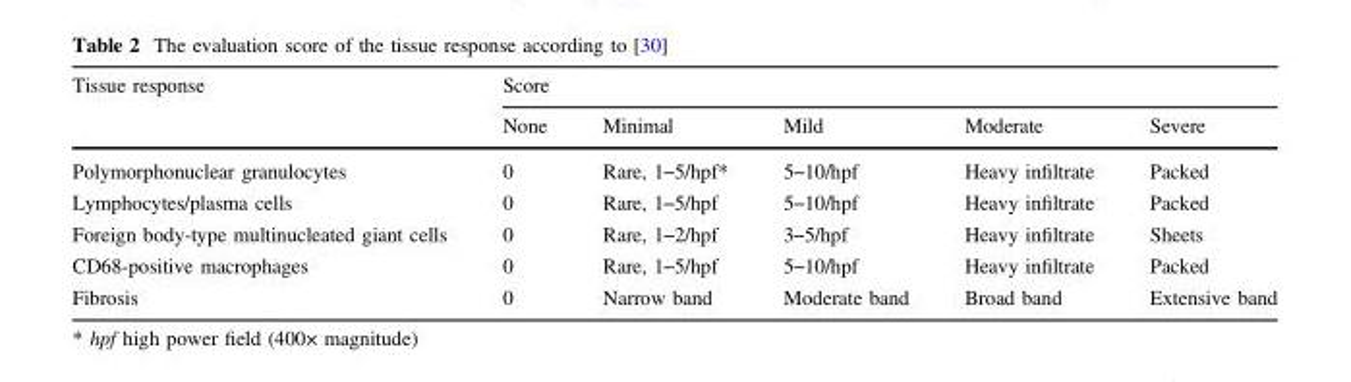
<table><thead><tr><td rowspan="2">Tissue response</td><td colspan="5">Score</td></tr><tr><td>None</td><td>Minimal</td><td>Mild</td><td>Moderate</td><td>Severe</td></tr></thead><tbody><tr><td>Polymorphonuclear granulocytes</td><td>0</td><td>Rare, 1–5/hpf*</td><td>5–10/hpf</td><td>Heavy infiltrate</td><td>Packed</td></tr><tr><td>Lymphocytes/plasma cells</td><td>0</td><td>Rare, 1–5/hpf</td><td>5–10/hpf</td><td>Heavy infiltrate</td><td>Packed</td></tr><tr><td>Foreign body-type multinucleated giant cells</td><td>0</td><td>Rare, 1–2/hpf</td><td>3–5/hpf</td><td>Heavy infiltrate</td><td>Sheets</td></tr><tr><td>CD68-positive macrophages</td><td>0</td><td>Rare, 1–5/hpf</td><td>5–10/hpf</td><td>Heavy infiltrate</td><td>Packed</td></tr><tr><td>Fibrosis</td><td>0</td><td>Narrow band</td><td>Moderate band</td><td>Broad band</td><td>Extensive band</td></tr></tbody></table>